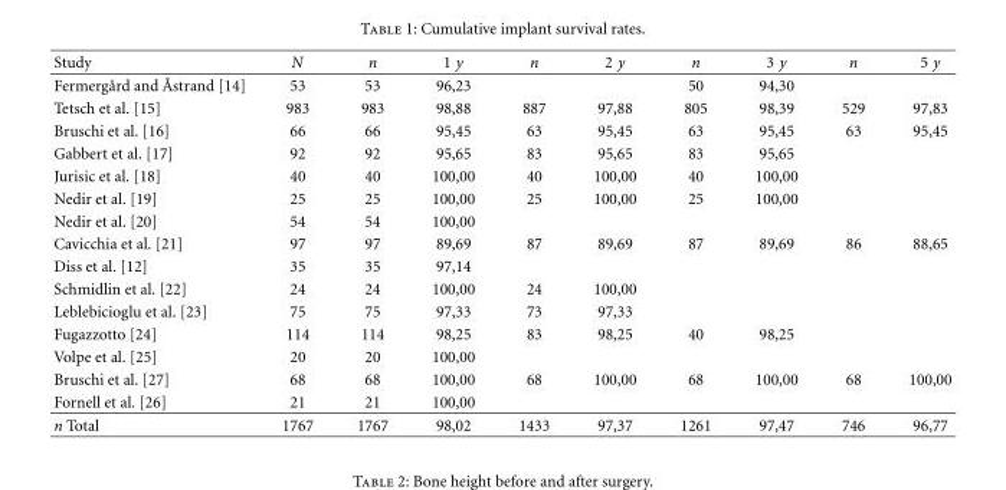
<table><thead><tr><td>Study</td><td>N</td><td>n</td><td>1 y</td><td>n</td><td>2 y</td><td>n</td><td>3 y</td><td>n</td><td>5 y</td></tr></thead><tbody><tr><td>Fermerg˚ard and ˚Astrand [14]</td><td>53</td><td>53</td><td>96,23</td><td></td><td></td><td>50</td><td>94,30</td><td></td><td></td></tr><tr><td>Tetsch et al. [15]</td><td>983</td><td>983</td><td>98,88</td><td>887</td><td>97,88</td><td>805</td><td>98,39</td><td>529</td><td>97,83</td></tr><tr><td>Bruschi et al. [16]</td><td>66</td><td>66</td><td>95,45</td><td>63</td><td>95,45</td><td>63</td><td>95,45</td><td>63</td><td>95,45</td></tr><tr><td>Gabbert et al. [17]</td><td>92</td><td>92</td><td>95,65</td><td>83</td><td>95,65</td><td>83</td><td>95,65</td><td></td><td></td></tr><tr><td>Jurisic et al. [18]</td><td>40</td><td>40</td><td>100,00</td><td>40</td><td>100,00</td><td>40</td><td>100,00</td><td></td><td></td></tr><tr><td>Nedir et al. [19]</td><td>25</td><td>25</td><td>100,00</td><td>25</td><td>100,00</td><td>25</td><td>100,00</td><td></td><td></td></tr><tr><td>Nedir et al. [20]</td><td>54</td><td>54</td><td>100,00</td><td></td><td></td><td></td><td></td><td></td><td></td></tr><tr><td>Cavicchia et al. [21]</td><td>97</td><td>97</td><td>89,69</td><td>87</td><td>89,69</td><td>87</td><td>89,69</td><td>86</td><td>88,65</td></tr><tr><td>Diss et al. [12]</td><td>35</td><td>35</td><td>97,14</td><td></td><td></td><td></td><td></td><td></td><td></td></tr><tr><td>Schmidlin et al. [22]</td><td>24</td><td>24</td><td>100,00</td><td>24</td><td>100,00</td><td></td><td></td><td></td><td></td></tr><tr><td>Leblebicioglu et al. [23]</td><td>75</td><td>75</td><td>97,33</td><td>73</td><td>97,33</td><td></td><td></td><td></td><td></td></tr><tr><td>Fugazzotto [24]</td><td>114</td><td>114</td><td>98,25</td><td>83</td><td>98,25</td><td>40</td><td>98,25</td><td></td><td></td></tr><tr><td>Volpe et al. [25]</td><td>20</td><td>20</td><td>100,00</td><td></td><td></td><td></td><td></td><td></td><td></td></tr><tr><td>Bruschi et al. [27]</td><td>68</td><td>68</td><td>100,00</td><td>68</td><td>100,00</td><td>68</td><td>100,00</td><td>68</td><td>100,00</td></tr><tr><td>Fornell et al. [26]</td><td>21</td><td>21</td><td>100,00</td><td></td><td></td><td></td><td></td><td></td><td></td></tr><tr><td>n Total</td><td>1767</td><td>1767</td><td>98,02</td><td>1433</td><td>97,37</td><td>1261</td><td>97,47</td><td>746</td><td>96,77</td></tr></tbody></table>